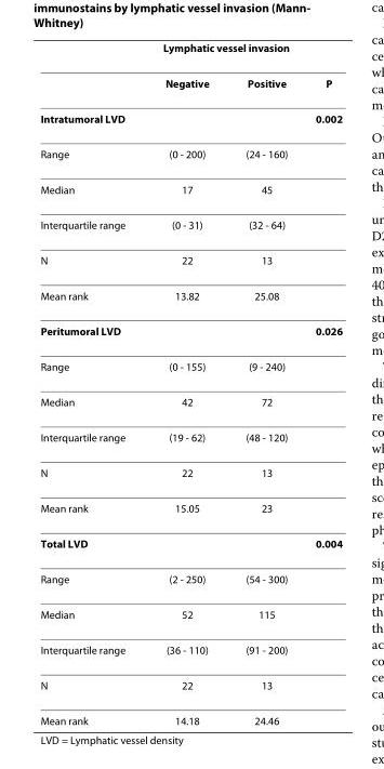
<table><thead><tr><td rowspan="2"></td><td colspan="2">Lymphatic vessel invasion</td><td rowspan="2">P</td></tr><tr><td>Negative</td><td>Positive</td></tr></thead><tbody><tr><td colspan="3">Intratumoral LVD</td><td>0.002</td></tr><tr><td>Range</td><td>(0 - 200)</td><td>(24 - 160)</td><td></td></tr><tr><td>Median</td><td>17</td><td>45</td><td></td></tr><tr><td>Interquartile range</td><td>(0 - 31)</td><td>(32 - 64)</td><td></td></tr><tr><td>N</td><td>22</td><td>13</td><td></td></tr><tr><td>Mean rank</td><td>13.82</td><td>25.08</td><td></td></tr><tr><td colspan="3">Peritumoral LVD</td><td>0.026</td></tr><tr><td>Range</td><td>(0 - 155)</td><td>(9 - 240)</td><td></td></tr><tr><td>Median</td><td>42</td><td>72</td><td></td></tr><tr><td>Interquartile range</td><td>(19 - 62)</td><td>(48 - 120)</td><td></td></tr><tr><td>N</td><td>22</td><td>13</td><td></td></tr><tr><td>Mean rank</td><td>15.05</td><td>23</td><td></td></tr><tr><td colspan="3">Total LVD</td><td>0.004</td></tr><tr><td>Range</td><td>(2 - 250)</td><td>(54 - 300)</td><td></td></tr><tr><td>Median</td><td>52</td><td>115</td><td></td></tr><tr><td>Interquartile range</td><td>(36 - 110)</td><td>(91 - 200)</td><td></td></tr><tr><td>N</td><td>22</td><td>13</td><td></td></tr><tr><td>Mean rank</td><td>14.18</td><td>24.46</td><td></td></tr></tbody></table>